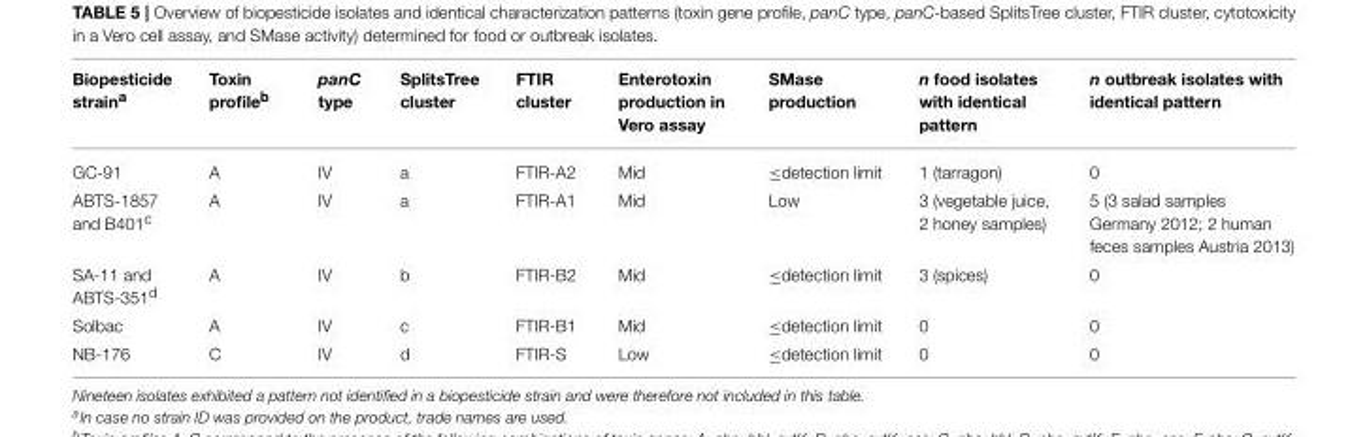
<table><thead><tr><td>Biopesticide strain<sup>a</sup></td><td>Toxin profile<sup>b</sup></td><td>panC type</td><td>SplitsTree cluster</td><td>FTIR cluster</td><td>Enterotoxin production in Vero assay</td><td>SMase production</td><td>n food isolates with identical pattern</td><td>n outbreak isolates with identical pattern</td></tr></thead><tbody><tr><td>GC-91</td><td>A</td><td>IV</td><td>a</td><td>FTIR-A2</td><td>Mid</td><td>≤detection limit</td><td>1 (tarragon)</td><td>0</td></tr><tr><td>ABTS-1857 and B401<sup>c</sup></td><td>A</td><td>IV</td><td>a</td><td>FTIR-A1</td><td>Mid</td><td>Low</td><td>3 (vegetable juice, 2 honey samples)</td><td>5 (3 salad samples Germany 2012; 2 human feces samples Austria 2013)</td></tr><tr><td>SA-11 and ABTS-351<sup>d</sup></td><td>A</td><td>IV</td><td>b</td><td>FTIR-B2</td><td>Mid</td><td>≤detection limit</td><td>3 (spices)</td><td>0</td></tr><tr><td>Solbac</td><td>A</td><td>IV</td><td>c</td><td>FTIR-B1</td><td>Mid</td><td>≤detection limit</td><td>0</td><td>0</td></tr><tr><td>NB-176</td><td>C</td><td>IV</td><td>d</td><td>FTIR-S</td><td>Low</td><td>≤detection limit</td><td>0</td><td>0</td></tr></tbody></table>